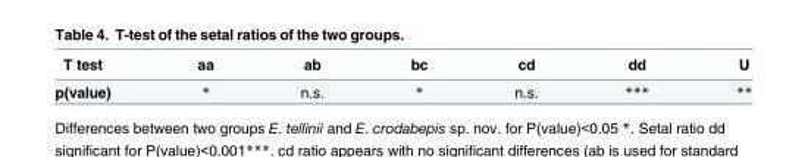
<table><thead><tr><td>T test</td><td>aa</td><td>ab</td><td>bc</td><td>cd</td><td>dd</td><td>U</td></tr></thead><tbody><tr><td>p(value)</td><td>*</td><td>n.s.</td><td>*</td><td>n.s.</td><td>***</td><td>**</td></tr></tbody></table>